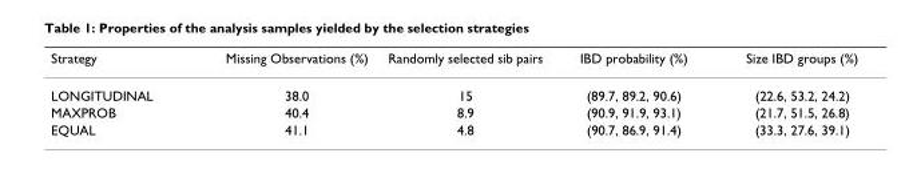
<table><thead><tr><td>Strategy</td><td>Missing Observations (%)</td><td>Randomly selected sib pairs</td><td>IBD probability (%)</td><td>Size IBD groups (%)</td></tr></thead><tbody><tr><td>LONGITUDINAL</td><td>38.0</td><td>15</td><td>(89.7, 89.2, 90.6)</td><td>(22.6, 53.2, 24.2)</td></tr><tr><td>MAXPROB</td><td>40.4</td><td>8.9</td><td>(90.9, 91.9, 93.1)</td><td>(21.7, 51.5, 26.8)</td></tr><tr><td>EQUAL</td><td>41.1</td><td>4.8</td><td>(90.7, 86.9, 91.4)</td><td>(33.3, 27.6, 39.1)</td></tr></tbody></table>